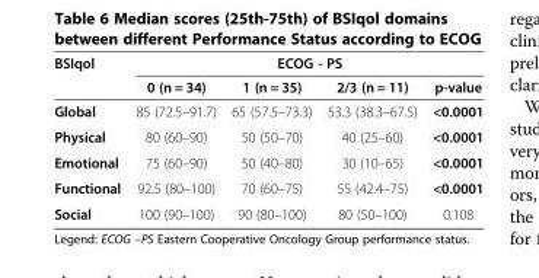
<table><thead><tr><td rowspan="2">BSIqol</td><td colspan="4">ECOG - PS</td></tr><tr><td>0 (n = 34)</td><td>1 (n = 35)</td><td>2/3 (n = 11)</td><td>p-value</td></tr></thead><tbody><tr><td>Global</td><td>85 (72.5–91.7)</td><td>65 (57.5–73.3)</td><td>53.3 (38.3–67.5)</td><td>&lt;0.0001</td></tr><tr><td>Physical</td><td>80 (60–90)</td><td>50 (50–70)</td><td>40 (25–60)</td><td>&lt;0.0001</td></tr><tr><td>Emotional</td><td>75 (60–90)</td><td>50 (40–80)</td><td>30 (10–65)</td><td>&lt;0.0001</td></tr><tr><td>Functional</td><td>92.5 (80–100)</td><td>70 (60–75)</td><td>55 (42.4–75)</td><td>&lt;0.0001</td></tr><tr><td>Social</td><td>100 (90–100)</td><td>90 (80–100)</td><td>80 (50–100)</td><td>0.108</td></tr></tbody></table>